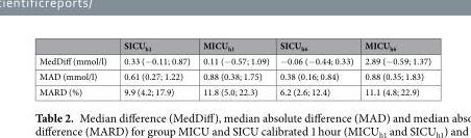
<table><thead><tr><td></td><td>SICU<sub>h1</sub></td><td>MICU<sub>h1</sub></td><td>SICU<sub>h6</sub></td><td>MICU<sub>h6</sub></td></tr></thead><tbody><tr><td>MedDiff (mmol/l)</td><td>0.33 (−0.11; 0.87)</td><td>0.11 (−0.57; 1.09)</td><td>−0.06 (−0.44; 0.33)</td><td>2.89 (−0.59; 1.37)</td></tr><tr><td>MAD (mmol/l)</td><td>0.61 (0.27; 1.22)</td><td>0.88 (0.38; 1.75)</td><td>0.38 (0.16; 0.84)</td><td>0.88 (0.35; 1.83)</td></tr><tr><td>MARD (%)</td><td>9.9 (4.2; 17.9)</td><td>11.8 (5.0; 22.3)</td><td>6.2 (2.6; 12.4)</td><td>11.1 (4.8; 22.9)</td></tr></tbody></table>